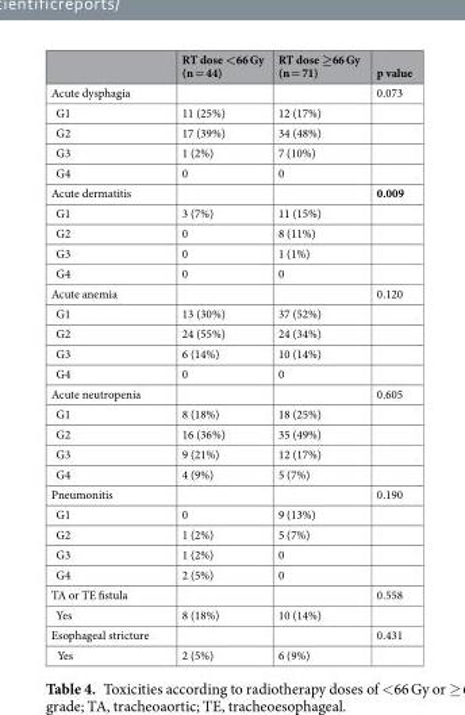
<table><thead><tr><td></td><td>RT dose &lt;66 Gy (n = 44)</td><td>RT dose ≥66 Gy (n = 71)</td><td>p value</td></tr></thead><tbody><tr><td>Acute dysphagia</td><td></td><td></td><td>0.073</td></tr><tr><td>G1</td><td>11 (25%)</td><td>12 (17%)</td><td></td></tr><tr><td>G2</td><td>17 (39%)</td><td>34 (48%)</td><td></td></tr><tr><td>G3</td><td>1 (2%)</td><td>7 (10%)</td><td></td></tr><tr><td>G4</td><td>0</td><td>0</td><td></td></tr><tr><td>Acute dermatitis</td><td></td><td></td><td>0.009</td></tr><tr><td>G1</td><td>3 (7%)</td><td>11 (15%)</td><td></td></tr><tr><td>G2</td><td>0</td><td>8 (11%)</td><td></td></tr><tr><td>G3</td><td>0</td><td>1 (1%)</td><td></td></tr><tr><td>G4</td><td>0</td><td>0</td><td></td></tr><tr><td>Acute anemia</td><td></td><td></td><td>0.120</td></tr><tr><td>G1</td><td>13 (30%)</td><td>37 (52%)</td><td></td></tr><tr><td>G2</td><td>24 (55%)</td><td>24 (34%)</td><td></td></tr><tr><td>G3</td><td>6 (14%)</td><td>10 (14%)</td><td></td></tr><tr><td>G4</td><td>0</td><td>0</td><td></td></tr><tr><td>Acute neutropenia</td><td></td><td></td><td>0.605</td></tr><tr><td>G1</td><td>8 (18%)</td><td>18 (25%)</td><td></td></tr><tr><td>G2</td><td>16 (36%)</td><td>35 (49%)</td><td></td></tr><tr><td>G3</td><td>9 (21%)</td><td>12 (17%)</td><td></td></tr><tr><td>G4</td><td>4 (9%)</td><td>5 (7%)</td><td></td></tr><tr><td>Pneumonitis</td><td></td><td></td><td>0.190</td></tr><tr><td>G1</td><td>0</td><td>9 (13%)</td><td></td></tr><tr><td>G2</td><td>1 (2%)</td><td>5 (7%)</td><td></td></tr><tr><td>G3</td><td>1 (2%)</td><td>0</td><td></td></tr><tr><td>G4</td><td>2 (5%)</td><td>0</td><td></td></tr><tr><td>TA or TE fistula</td><td></td><td></td><td>0.558</td></tr><tr><td>Yes</td><td>8 (18%)</td><td>10 (14%)</td><td></td></tr><tr><td>Esophageal stricture</td><td></td><td></td><td>0.431</td></tr><tr><td>Yes</td><td>2 (5%)</td><td>6 (9%)</td><td></td></tr></tbody></table>